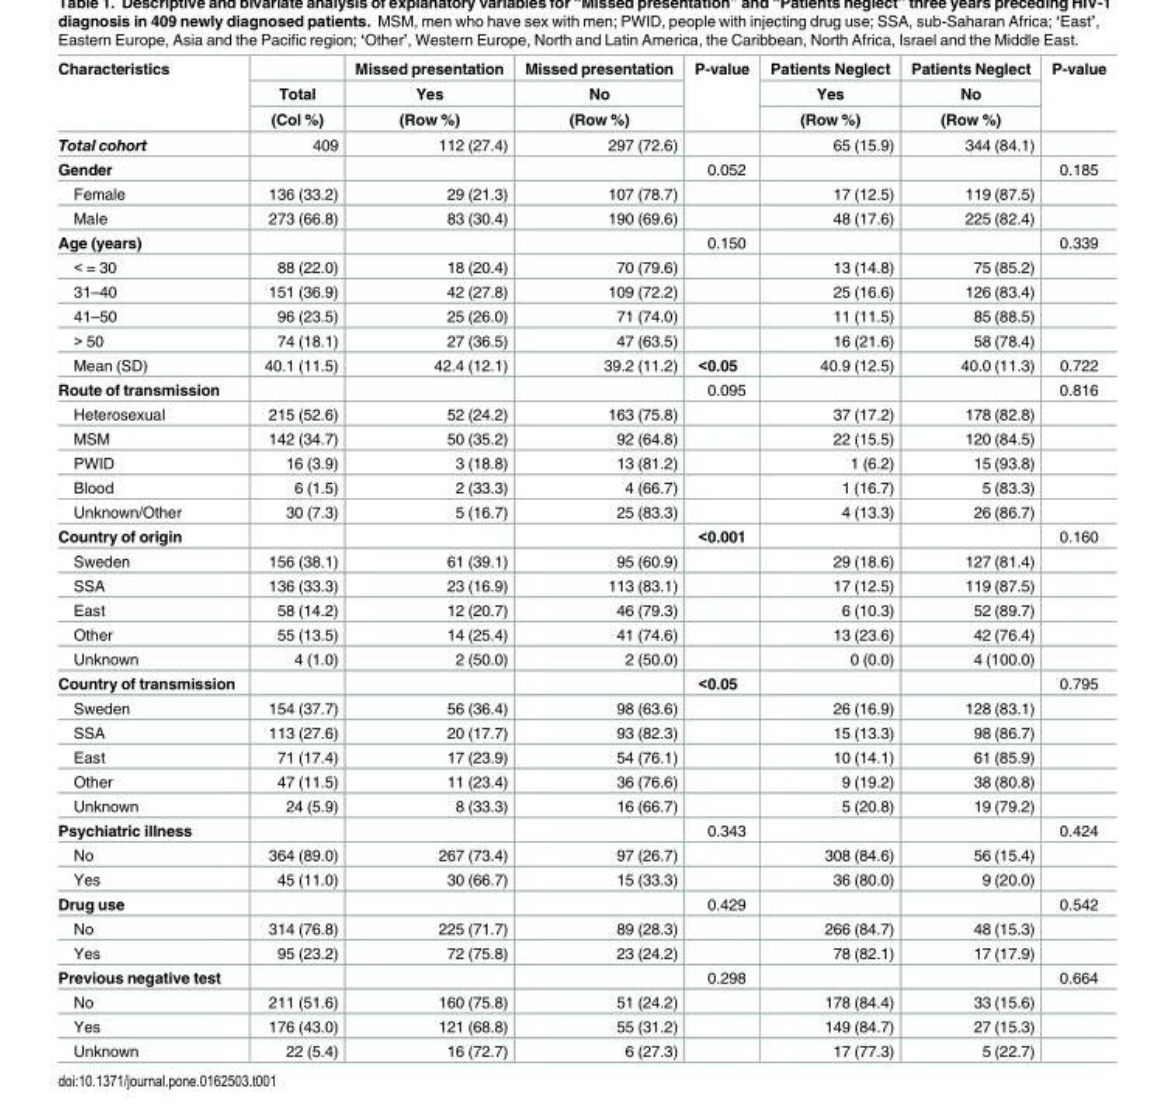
<table><thead><tr><td rowspan="3">Characteristics</td><td rowspan="3">Total (Col %)</td><td rowspan="3">Missed presentation Yes (Row %)</td><td rowspan="3">Missed presentation No (Row %)</td><td rowspan="3">P-value</td><td rowspan="3">Patients Neglect Yes (Row %)</td><td rowspan="3">Patients Neglect No (Row %)</td><td rowspan="3">P-value</td></tr><tr></tr><tr></tr></thead><tbody><tr><td>Total cohort</td><td>409</td><td>112 (27.4)</td><td>297 (72.6)</td><td></td><td>65 (15.9)</td><td>344 (84.1)</td><td></td></tr><tr><td>Gender</td><td></td><td></td><td></td><td>0.052</td><td></td><td></td><td>0.185</td></tr><tr><td>Female</td><td>136 (33.2)</td><td>29 (21.3)</td><td>107 (78.7)</td><td></td><td>17 (12.5)</td><td>119 (87.5)</td><td></td></tr><tr><td>Male</td><td>273 (66.8)</td><td>83 (30.4)</td><td>190 (69.6)</td><td></td><td>48 (17.6)</td><td>225 (82.4)</td><td></td></tr><tr><td>Age (years)</td><td></td><td></td><td></td><td>0.150</td><td></td><td></td><td>0.339</td></tr><tr><td>&lt; = 30</td><td>88 (22.0)</td><td>18 (20.4)</td><td>70 (79.6)</td><td></td><td>13 (14.8)</td><td>75 (85.2)</td><td></td></tr><tr><td>31–40</td><td>151 (36.9)</td><td>42 (27.8)</td><td>109 (72.2)</td><td></td><td>25 (16.6)</td><td>126 (83.4)</td><td></td></tr><tr><td>41–50</td><td>96 (23.5)</td><td>25 (26.0)</td><td>71 (74.0)</td><td></td><td>11 (11.5)</td><td>85 (88.5)</td><td></td></tr><tr><td>&gt; 50</td><td>74 (18.1)</td><td>27 (36.5)</td><td>47 (63.5)</td><td></td><td>16 (21.6)</td><td>58 (78.4)</td><td></td></tr><tr><td>Mean (SD)</td><td>40.1 (11.5)</td><td>42.4 (12.1)</td><td>39.2 (11.2)</td><td>&lt;0.05</td><td>40.9 (12.5)</td><td>40.0 (11.3)</td><td>0.722</td></tr><tr><td>Route of transmission</td><td></td><td></td><td></td><td>0.095</td><td></td><td></td><td>0.816</td></tr><tr><td>Heterosexual</td><td>215 (52.6)</td><td>52 (24.2)</td><td>163 (75.8)</td><td></td><td>37 (17.2)</td><td>178 (82.8)</td><td></td></tr><tr><td>MSM</td><td>142 (34.7)</td><td>50 (35.2)</td><td>92 (64.8)</td><td></td><td>22 (15.5)</td><td>120 (84.5)</td><td></td></tr><tr><td>PWID</td><td>16 (3.9)</td><td>3 (18.8)</td><td>13 (81.2)</td><td></td><td>1 (6.2)</td><td>15 (93.8)</td><td></td></tr><tr><td>Blood</td><td>6 (1.5)</td><td>2 (33.3)</td><td>4 (66.7)</td><td></td><td>1 (16.7)</td><td>5 (83.3)</td><td></td></tr><tr><td>Unknown/Other</td><td>30 (7.3)</td><td>5 (16.7)</td><td>25 (83.3)</td><td></td><td>4 (13.3)</td><td>26 (86.7)</td><td></td></tr><tr><td>Country of origin</td><td></td><td></td><td></td><td>&lt;0.001</td><td></td><td></td><td>0.160</td></tr><tr><td>Sweden</td><td>156 (38.1)</td><td>61 (39.1)</td><td>95 (60.9)</td><td></td><td>29 (18.6)</td><td>127 (81.4)</td><td></td></tr><tr><td>SSA</td><td>136 (33.3)</td><td>23 (16.9)</td><td>113 (83.1)</td><td></td><td>17 (12.5)</td><td>119 (87.5)</td><td></td></tr><tr><td>East</td><td>58 (14.2)</td><td>12 (20.7)</td><td>46 (79.3)</td><td></td><td>6 (10.3)</td><td>52 (89.7)</td><td></td></tr><tr><td>Other</td><td>55 (13.5)</td><td>14 (25.4)</td><td>41 (74.6)</td><td></td><td>13 (23.6)</td><td>42 (76.4)</td><td></td></tr><tr><td>Unknown</td><td>4 (1.0)</td><td>2 (50.0)</td><td>2 (50.0)</td><td></td><td>0 (0.0)</td><td>4 (100.0)</td><td></td></tr><tr><td>Country of transmission</td><td></td><td></td><td></td><td>&lt;0.05</td><td></td><td></td><td>0.795</td></tr><tr><td>Sweden</td><td>154 (37.7)</td><td>56 (36.4)</td><td>98 (63.6)</td><td></td><td>26 (16.9)</td><td>128 (83.1)</td><td></td></tr><tr><td>SSA</td><td>113 (27.6)</td><td>20 (17.7)</td><td>93 (82.3)</td><td></td><td>15 (13.3)</td><td>98 (86.7)</td><td></td></tr><tr><td>East</td><td>71 (17.4)</td><td>17 (23.9)</td><td>54 (76.1)</td><td></td><td>10 (14.1)</td><td>61 (85.9)</td><td></td></tr><tr><td>Other</td><td>47 (11.5)</td><td>11 (23.4)</td><td>36 (76.6)</td><td></td><td>9 (19.2)</td><td>38 (80.8)</td><td></td></tr><tr><td>Unknown</td><td>24 (5.9)</td><td>8 (33.3)</td><td>16 (66.7)</td><td></td><td>5 (20.8)</td><td>19 (79.2)</td><td></td></tr><tr><td>Psychiatric illness</td><td></td><td></td><td></td><td>0.343</td><td></td><td></td><td>0.424</td></tr><tr><td>No</td><td>364 (89.0)</td><td>267 (73.4)</td><td>97 (26.7)</td><td></td><td>308 (84.6)</td><td>56 (15.4)</td><td></td></tr><tr><td>Yes</td><td>45 (11.0)</td><td>30 (66.7)</td><td>15 (33.3)</td><td></td><td>36 (80.0)</td><td>9 (20.0)</td><td></td></tr><tr><td>Drug use</td><td></td><td></td><td></td><td>0.429</td><td></td><td></td><td>0.542</td></tr><tr><td>No</td><td>314 (76.8)</td><td>225 (71.7)</td><td>89 (28.3)</td><td></td><td>266 (84.7)</td><td>48 (15.3)</td><td></td></tr><tr><td>Yes</td><td>95 (23.2)</td><td>72 (75.8)</td><td>23 (24.2)</td><td></td><td>78 (82.1)</td><td>17 (17.9)</td><td></td></tr><tr><td>Previous negative test</td><td></td><td></td><td></td><td>0.298</td><td></td><td></td><td>0.664</td></tr><tr><td>No</td><td>211 (51.6)</td><td>160 (75.8)</td><td>51 (24.2)</td><td></td><td>178 (84.4)</td><td>33 (15.6)</td><td></td></tr><tr><td>Yes</td><td>176 (43.0)</td><td>121 (68.8)</td><td>55 (31.2)</td><td></td><td>149 (84.7)</td><td>27 (15.3)</td><td></td></tr><tr><td>Unknown</td><td>22 (5.4)</td><td>16 (72.7)</td><td>6 (27.3)</td><td></td><td>17 (77.3)</td><td>5 (22.7)</td><td></td></tr></tbody></table>